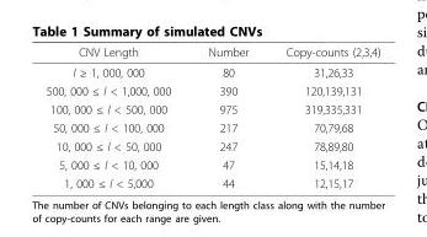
<table><thead><tr><td>CNV Length</td><td>Number</td><td>Copy-counts (2,3,4)</td></tr></thead><tbody><tr><td>l ≥ 1, 000, 000</td><td>80</td><td>31,26,33</td></tr><tr><td>500, 000 ≤ l &lt; 1,000, 000</td><td>390</td><td>120,139,131</td></tr><tr><td>100, 000 ≤ l &lt; 500, 000</td><td>975</td><td>319,335,331</td></tr><tr><td>50, 000 ≤ l &lt; 100, 000</td><td>217</td><td>70,79,68</td></tr><tr><td>10, 000 ≤ l &lt; 50, 000</td><td>247</td><td>78,89,80</td></tr><tr><td>5, 000 ≤ l &lt; 10, 000</td><td>47</td><td>15,14,18</td></tr><tr><td>1, 000 ≤ l &lt; 5,000</td><td>44</td><td>12,15,17</td></tr></tbody></table>